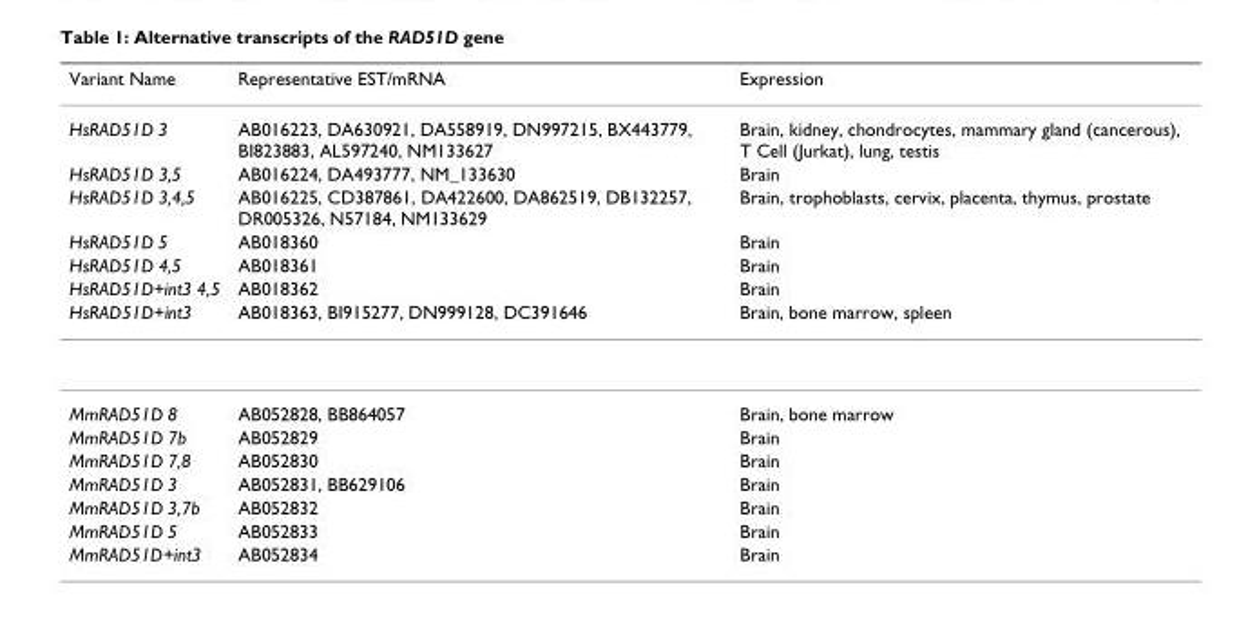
<table><thead><tr><td>Variant Name</td><td>Representative EST/mRNA</td><td>Expression</td></tr></thead><tbody><tr><td>HsRAD51D 3</td><td>AB016223, DA630921, DA558919, DN997215, BX443779, BI823883, AL597240, NM133627</td><td>Brain, kidney, chondrocytes, mammary gland (cancerous), T Cell (Jurkat), lung, testis</td></tr><tr><td>HsRAD51D 3,5</td><td>AB016224, DA493777, NM_133630</td><td>Brain</td></tr><tr><td>HsRAD51D 3,4,5</td><td>AB016225, CD387861, DA422600, DA862519, DB132257, DR005326, N57184, NM133629</td><td>Brain, trophoblasts, cervix, placenta, thymus, prostate</td></tr><tr><td>HsRAD51D 5</td><td>AB018360</td><td>Brain</td></tr><tr><td>HsRAD51D 4,5</td><td>AB018361</td><td>Brain</td></tr><tr><td>HsRAD51D+int3 4,5</td><td>AB018362</td><td>Brain</td></tr><tr><td>HsRAD51D+int3</td><td>AB018363, BI915277, DN999128, DC391646</td><td>Brain, bone marrow, spleen</td></tr><tr><td>MmRAD51D 8</td><td>AB052828, BB864057</td><td>Brain, bone marrow</td></tr><tr><td>MmRAD51D 7b</td><td>AB052829</td><td>Brain</td></tr><tr><td>MmRAD51D 7,8</td><td>AB052830</td><td>Brain</td></tr><tr><td>MmRAD51D 3</td><td>AB052831, BB629106</td><td>Brain</td></tr><tr><td>MmRAD51D 3,7b</td><td>AB052832</td><td>Brain</td></tr><tr><td>MmRAD51D 5</td><td>AB052833</td><td>Brain</td></tr><tr><td>MmRAD51D+int3</td><td>AB052834</td><td>Brain</td></tr></tbody></table>